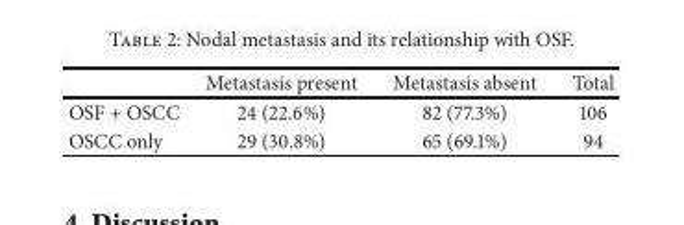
<table><thead><tr><td></td><td>Metastasis present</td><td>Metastasis absent</td><td>Total</td></tr></thead><tbody><tr><td>OSF + OSCC</td><td>24 (22.6%)</td><td>82 (77.3%)</td><td>106</td></tr><tr><td>OSCC only</td><td>29 (30.8%)</td><td>65 (69.1%)</td><td>94</td></tr></tbody></table>